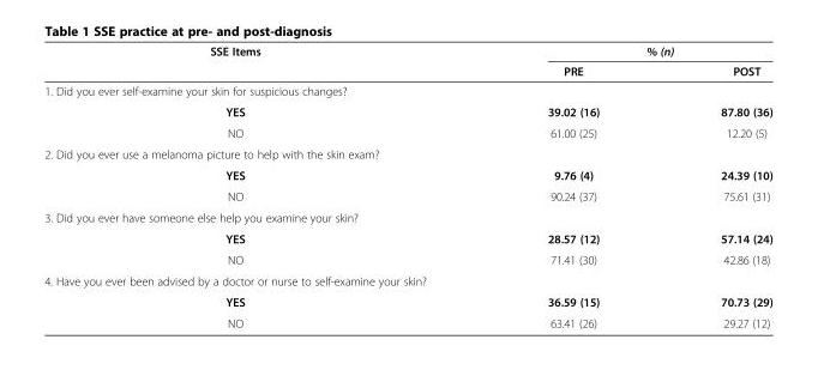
<table><thead><tr><td rowspan="2">SSE Items</td><td colspan="2">% (n)</td></tr><tr><td>PRE</td><td>POST</td></tr></thead><tbody><tr><td colspan="3">1. Did you ever self-examine your skin for suspicious changes?</td></tr><tr><td>YES</td><td>39.02 (16)</td><td>87.80 (36)</td></tr><tr><td>NO</td><td>61.00 (25)</td><td>12.20 (5)</td></tr><tr><td colspan="3">2. Did you ever use a melanoma picture to help with the skin exam?</td></tr><tr><td>YES</td><td>9.76 (4)</td><td>24.39 (10)</td></tr><tr><td>NO</td><td>90.24 (37)</td><td>75.61 (31)</td></tr><tr><td colspan="3">3. Did you ever have someone else help you examine your skin?</td></tr><tr><td>YES</td><td>28.57 (12)</td><td>57.14 (24)</td></tr><tr><td>NO</td><td>71.41 (30)</td><td>42.86 (18)</td></tr><tr><td colspan="3">4. Have you ever been advised by a doctor or nurse to self-examine your skin?</td></tr><tr><td>YES</td><td>36.59 (15)</td><td>70.73 (29)</td></tr><tr><td>NO</td><td>63.41 (26)</td><td>29.27 (12)</td></tr></tbody></table>